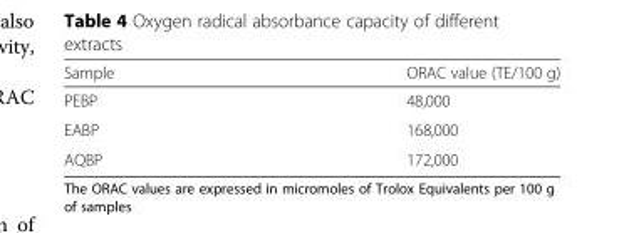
<table><thead><tr><td>Sample</td><td>ORAC value (TE/100 g)</td></tr></thead><tbody><tr><td>PEBP</td><td>48,000</td></tr><tr><td>EABP</td><td>168,000</td></tr><tr><td>AQBP</td><td>172,000</td></tr></tbody></table>